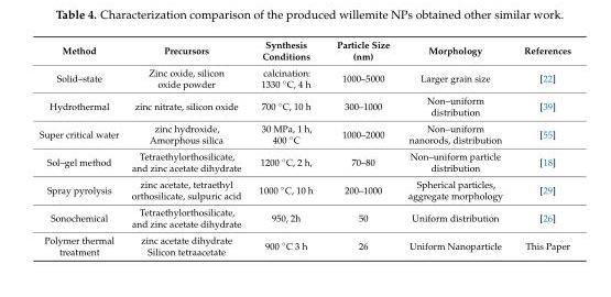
<table><thead><tr><td>Method</td><td>Precursors</td><td>Synthesis Conditions</td><td>Particle Size (nm)</td><td>Morphology</td><td>References</td></tr></thead><tbody><tr><td>Solid–state</td><td>Zinc oxide, silicon oxide powder</td><td>calcination: 1330 ◦C, 4 h</td><td>1000–5000</td><td>Larger grain size</td><td>[22]</td></tr><tr><td>Hydrothermal</td><td>zinc nitrate, silicon oxide</td><td>700 ◦C, 10 h</td><td>300–1000</td><td>Non–uniform distribution</td><td>[39]</td></tr><tr><td>Super critical water</td><td>zinc hydroxide, Amorphous silica</td><td>30 MPa, 1 h, 400 ◦C</td><td>1000–2000</td><td>Non–uniform nanorods, distribution</td><td>[55]</td></tr><tr><td>Sol–gel method</td><td>Tetraethylorthosilicate, and zinc acetate dihydrate</td><td>1200 ◦C, 2 h,</td><td>70–80</td><td>Non–uniform particle distribution</td><td>[18]</td></tr><tr><td>Spray pyrolysis</td><td>zinc acetate, tetraethyl orthosilicate, sulpuric acid</td><td>1000 ◦C, 10 h</td><td>200–1000</td><td>Spherical particles, aggregate morphology</td><td>[29]</td></tr><tr><td>Sonochemical</td><td>Tetraethylorthosilicate, and zinc acetate dihydrate</td><td>950, 2h</td><td>50</td><td>Uniform distribution</td><td>[26]</td></tr><tr><td>Polymer thermal treatment</td><td>zinc acetate dihydrate Silicon tetraacetate</td><td>900 ◦C 3 h</td><td>26</td><td>Uniform Nanoparticle</td><td>This Paper</td></tr></tbody></table>